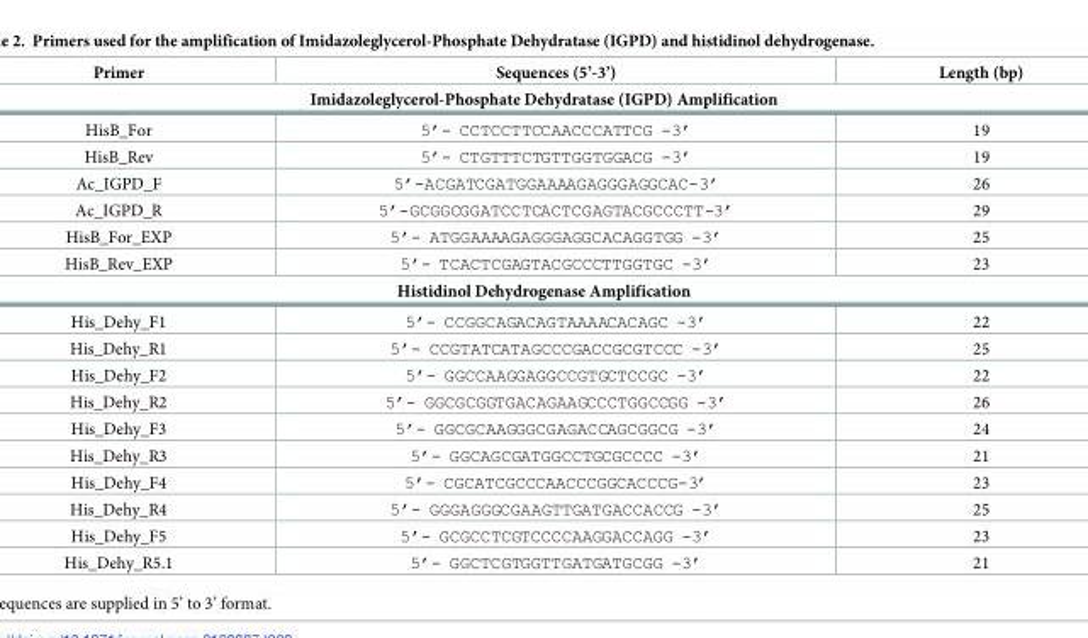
<table><thead><tr><td>Primer</td><td>Sequences (5’-3’)</td><td>Length (bp)</td></tr></thead><tbody><tr><td colspan="3">Imidazoleglycerol-Phosphate Dehydratase (IGPD) Amplification</td></tr><tr><td>HisB_For</td><td>5’- CCTCCTTCCAACCCATTCG -3’</td><td>19</td></tr><tr><td>HisB_Rev</td><td>5’- CTGTTTCTGTTGGTGGACG -3’</td><td>19</td></tr><tr><td>Ac_IGPD_F</td><td>5’-ACGATCGATGGAAAAGAGGGAGGCAC-3’</td><td>26</td></tr><tr><td>Ac_IGPD_R</td><td>5’-GCGGCGGATCCTCACTCGAGTACGCCCTT-3’</td><td>29</td></tr><tr><td>HisB_For_EXP</td><td>5’- ATGGAAAAGAGGGAGGCACAGGTGG -3’</td><td>25</td></tr><tr><td>HisB_Rev_EXP</td><td>5’- TCACTCGAGTACGCCCTTGGTGC -3’</td><td>23</td></tr><tr><td colspan="3">Histidinol Dehydrogenase Amplification</td></tr><tr><td>His_Dehy_F1</td><td>5’- CCGGCAGACAGTAAAACACAGC -3’</td><td>22</td></tr><tr><td>His_Dehy_R1</td><td>5’- CCGTATCATAGCCCGACCGCGTCCC -3’</td><td>25</td></tr><tr><td>His_Dehy_F2</td><td>5’- GGCCAAGGAGGCCGTGCTCCGC -3’</td><td>22</td></tr><tr><td>His_Dehy_R2</td><td>5’- GGCGCGGTGACAGAAGCCCTGGCCGG -3’</td><td>26</td></tr><tr><td>His_Dehy_F3</td><td>5’- GGCGCAAGGGCGAGACCAGCGGCG -3’</td><td>24</td></tr><tr><td>His_Dehy_R3</td><td>5’- GGCAGCGATGGCCTGCGCCCC -3’</td><td>21</td></tr><tr><td>His_Dehy_F4</td><td>5’- CGCATCGCCCAACCCGGCACCCG-3’</td><td>23</td></tr><tr><td>His_Dehy_R4</td><td>5’- GGGAGGGCGAAGTTGATGACCACCG -3’</td><td>25</td></tr><tr><td>His_Dehy_F5</td><td>5’- GCGCCTCGTCCCCAAGGACCAGG -3’</td><td>23</td></tr><tr><td>His_Dehy_R5.1</td><td>5’- GGCTCGTGGTTGATGATGCGG -3’</td><td>21</td></tr></tbody></table>